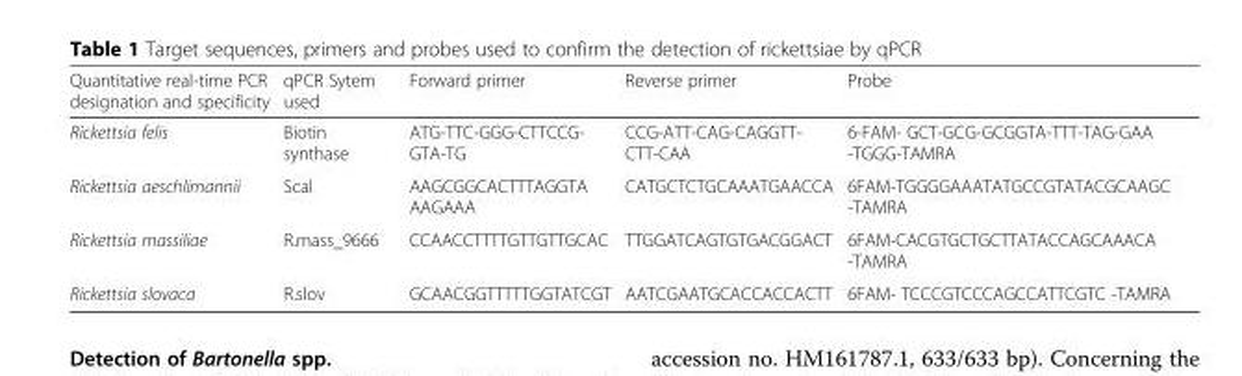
<table><thead><tr><td>Quantitative real-time PCR designation and specificity</td><td>qPCR Sytem used</td><td>Forward primer</td><td>Reverse primer</td><td>Probe</td></tr></thead><tbody><tr><td>Rickettsia felis</td><td>Biotin synthase</td><td>ATG-TTC-GGG-CTTCCG- GTA-TG</td><td>CCG-ATT-CAG-CAGGTT- CTT-CAA</td><td>6-FAM- GCT-GCG-GCGGTA-TTT-TAG-GAA -TGGG-TAMRA</td></tr><tr><td>Rickettsia aeschlimannii</td><td>Scal</td><td>AAGCGGCACTTTAGGTA AAGAAA</td><td>CATGCTCTGCAAATGAACCA</td><td>6FAM-TGGGGAAATATGCCGTATACGCAAGC -TAMRA</td></tr><tr><td>Rickettsia massiliae</td><td>R.mass_9666</td><td>CCAACCTTTTGTTGTTGCAC</td><td>TTGGATCAGTGTGACGGACT</td><td>6FAM-CACGTGCTGCTTATACCAGCAAACA -TAMRA</td></tr><tr><td>Rickettsia slovaca</td><td>R.slov</td><td>GCAACGGTTTTTGGTATCGT</td><td>AATCGAATGCACCACCACTT</td><td>6FAM- TCCCGTCCCAGCCATTCGTC -TAMRA</td></tr></tbody></table>